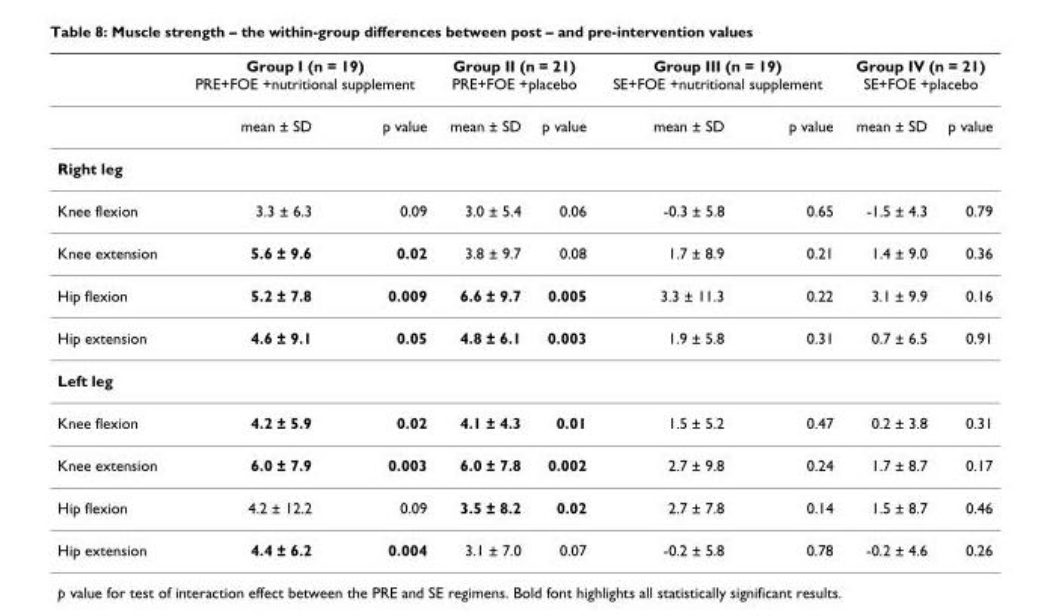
<table><thead><tr><td rowspan="2"></td><td colspan="2">Group I (n = 19) PRE+FOE +nutritional supplement</td><td colspan="2">Group II (n = 21) PRE+FOE +placebo</td><td colspan="2">Group III (n = 19) SE+FOE +nutritional supplement</td><td colspan="2">Group IV (n = 21) SE+FOE +placebo</td></tr><tr><td>mean ± SD</td><td>p value</td><td>mean ± SD</td><td>p value</td><td>mean ± SD</td><td>p value</td><td>mean ± SD</td><td>p value</td></tr></thead><tbody><tr><td colspan="9">Right leg</td></tr><tr><td>Knee flexion</td><td>3.3 ± 6.3</td><td>0.09</td><td>3.0 ± 5.4</td><td>0.06</td><td>-0.3 ± 5.8</td><td>0.65</td><td>-1.5 ± 4.3</td><td>0.79</td></tr><tr><td>Knee extension</td><td>5.6 ± 9.6</td><td>0.02</td><td>3.8 ± 9.7</td><td>0.08</td><td>1.7 ± 8.9</td><td>0.21</td><td>1.4 ± 9.0</td><td>0.36</td></tr><tr><td>Hip flexion</td><td>5.2 ± 7.8</td><td>0.009</td><td>6.6 ± 9.7</td><td>0.005</td><td>3.3 ± 11.3</td><td>0.22</td><td>3.1 ± 9.9</td><td>0.16</td></tr><tr><td>Hip extension</td><td>4.6 ± 9.1</td><td>0.05</td><td>4.8 ± 6.1</td><td>0.003</td><td>1.9 ± 5.8</td><td>0.31</td><td>0.7 ± 6.5</td><td>0.91</td></tr><tr><td colspan="9">Left leg</td></tr><tr><td>Knee flexion</td><td>4.2 ± 5.9</td><td>0.02</td><td>4.1 ± 4.3</td><td>0.01</td><td>1.5 ± 5.2</td><td>0.47</td><td>0.2 ± 3.8</td><td>0.31</td></tr><tr><td>Knee extension</td><td>6.0 ± 7.9</td><td>0.003</td><td>6.0 ± 7.8</td><td>0.002</td><td>2.7 ± 9.8</td><td>0.24</td><td>1.7 ± 8.7</td><td>0.17</td></tr><tr><td>Hip flexion</td><td>4.2 ± 12.2</td><td>0.09</td><td>3.5 ± 8.2</td><td>0.02</td><td>2.7 ± 7.8</td><td>0.14</td><td>1.5 ± 8.7</td><td>0.46</td></tr><tr><td>Hip extension</td><td>4.4 ± 6.2</td><td>0.004</td><td>3.1 ± 7.0</td><td>0.07</td><td>-0.2 ± 5.8</td><td>0.78</td><td>-0.2 ± 4.6</td><td>0.26</td></tr></tbody></table>